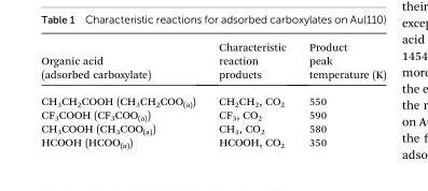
<table><thead><tr><td>Organic acid (adsorbed carboxylate)</td><td>Characteristic reaction products</td><td>Product peak temperature (K)</td></tr></thead><tbody><tr><td>CH<sub>3</sub>CH<sub>2</sub>COOH (CH<sub>3</sub>CH<sub>2</sub>COO<sub>(a)</sub>)</td><td>CH<sub>2</sub>CH<sub>2</sub>, CO<sub>2</sub></td><td>550</td></tr><tr><td>CF<sub>3</sub>COOH (CF<sub>3</sub>COO<sub>(a)</sub>)</td><td>CF<sub>3</sub>, CO<sub>2</sub></td><td>590</td></tr><tr><td>CH<sub>3</sub>COOH (CH<sub>3</sub>COO<sub>(a)</sub>)</td><td>CH<sub>3</sub>, CO<sub>2</sub></td><td>580</td></tr><tr><td>HCOOH (HCOO<sub>(a)</sub>)</td><td>HCOOH, CO<sub>2</sub></td><td>350</td></tr></tbody></table>